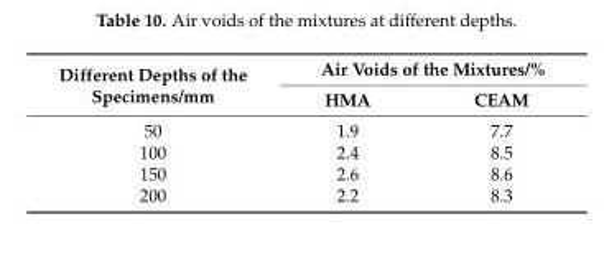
<table><thead><tr><td rowspan="2">Different Depths of the Specimens/mm</td><td colspan="2">Air Voids of the Mixtures/%</td></tr><tr><td>HMA</td><td>CEAM</td></tr></thead><tbody><tr><td>50</td><td>1.9</td><td>7.7</td></tr><tr><td>100</td><td>2.4</td><td>8.5</td></tr><tr><td>150</td><td>2.6</td><td>8.6</td></tr><tr><td>200</td><td>2.2</td><td>8.3</td></tr></tbody></table>